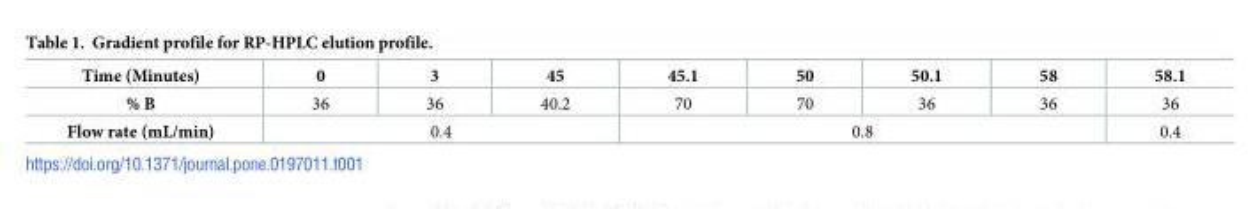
<table><thead><tr><td>Time (Minutes)</td><td>0</td><td>3</td><td>45</td><td>45.1</td><td>50</td><td>50.1</td><td>58</td><td>58.1</td></tr></thead><tbody><tr><td>% B</td><td>36</td><td>36</td><td>40.2</td><td>70</td><td>70</td><td>36</td><td>36</td><td>36</td></tr><tr><td>Flow rate (mL/min)</td><td colspan="3">0.4</td><td colspan="4">0.8</td><td>0.4</td></tr></tbody></table>